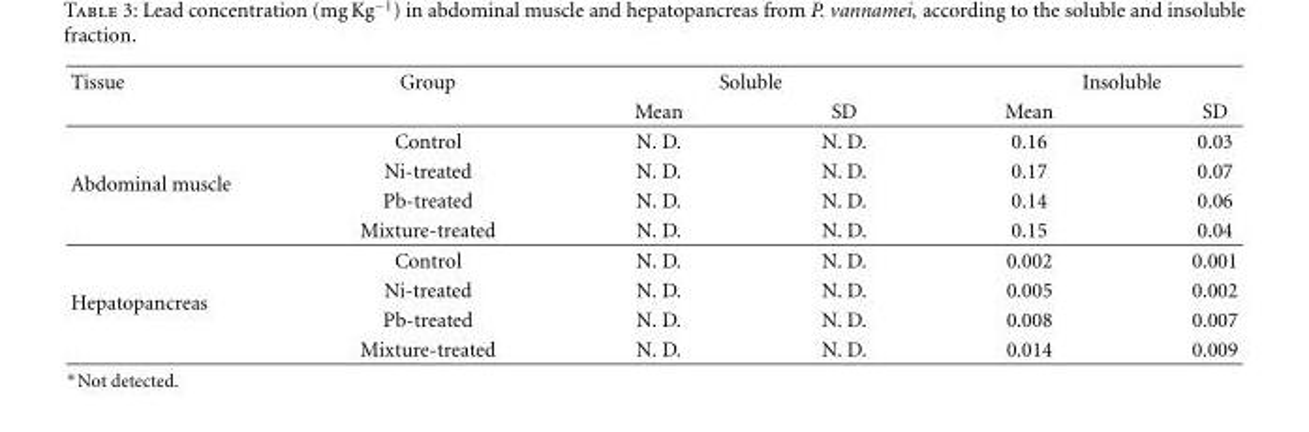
<table><thead><tr><td rowspan="2">Tissue</td><td rowspan="2">Group</td><td colspan="2">Soluble</td><td colspan="2">Insoluble</td></tr><tr><td>Mean</td><td>SD</td><td>Mean</td><td>SD</td></tr></thead><tbody><tr><td rowspan="4">Abdominal muscle</td><td>Control</td><td>N. D.</td><td>N. D.</td><td>0.16</td><td>0.03</td></tr><tr><td>Ni-treated</td><td>N. D.</td><td>N. D.</td><td>0.17</td><td>0.07</td></tr><tr><td>Pb-treated</td><td>N. D.</td><td>N. D.</td><td>0.14</td><td>0.06</td></tr><tr><td>Mixture-treated</td><td>N. D.</td><td>N. D.</td><td>0.15</td><td>0.04</td></tr><tr><td rowspan="4">Hepatopancreas</td><td>Control</td><td>N. D.</td><td>N. D.</td><td>0.002</td><td>0.001</td></tr><tr><td>Ni-treated</td><td>N. D.</td><td>N. D.</td><td>0.005</td><td>0.002</td></tr><tr><td>Pb-treated</td><td>N. D.</td><td>N. D.</td><td>0.008</td><td>0.007</td></tr><tr><td>Mixture-treated</td><td>N. D.</td><td>N. D.</td><td>0.014</td><td>0.009</td></tr></tbody></table>